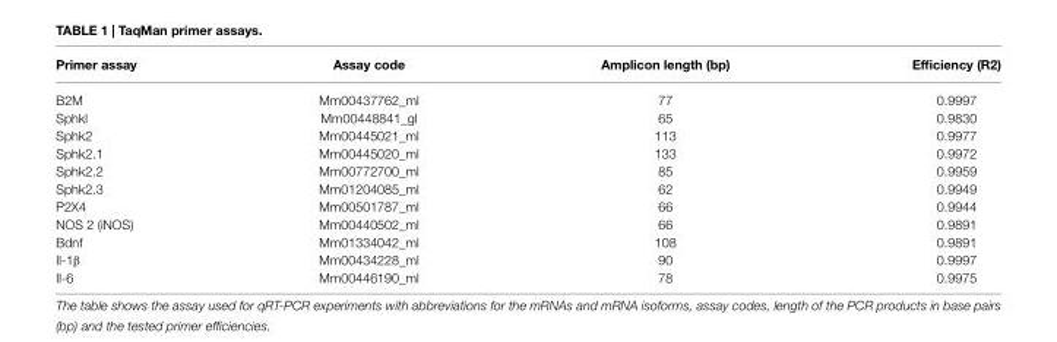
<table><thead><tr><td>Primer assay</td><td>Assay code</td><td>Amplicon length (bp)</td><td>Efficiency (R2)</td></tr></thead><tbody><tr><td>B2M</td><td>Mm00437762_ml</td><td>77</td><td>0.9997</td></tr><tr><td>Sphkl</td><td>Mm00448841_gl</td><td>65</td><td>0.9830</td></tr><tr><td>Sphk2</td><td>Mm00445021_ml</td><td>113</td><td>0.9977</td></tr><tr><td>Sphk2.1</td><td>Mm00445020_ml</td><td>133</td><td>0.9972</td></tr><tr><td>Sphk2.2</td><td>Mm00772700_ml</td><td>85</td><td>0.9959</td></tr><tr><td>Sphk2.3</td><td>Mm01204085_ml</td><td>62</td><td>0.9949</td></tr><tr><td>P2X4</td><td>Mm00501787_ml</td><td>66</td><td>0.9944</td></tr><tr><td>NOS 2 (iNOS)</td><td>Mm00440502_ml</td><td>66</td><td>0.9891</td></tr><tr><td>Bdnf</td><td>Mm01334042_ml</td><td>108</td><td>0.9891</td></tr><tr><td>Il-1β</td><td>Mm00434228_ml</td><td>90</td><td>0.9997</td></tr><tr><td>Il-6</td><td>Mm00446190_ml</td><td>78</td><td>0.9975</td></tr></tbody></table>